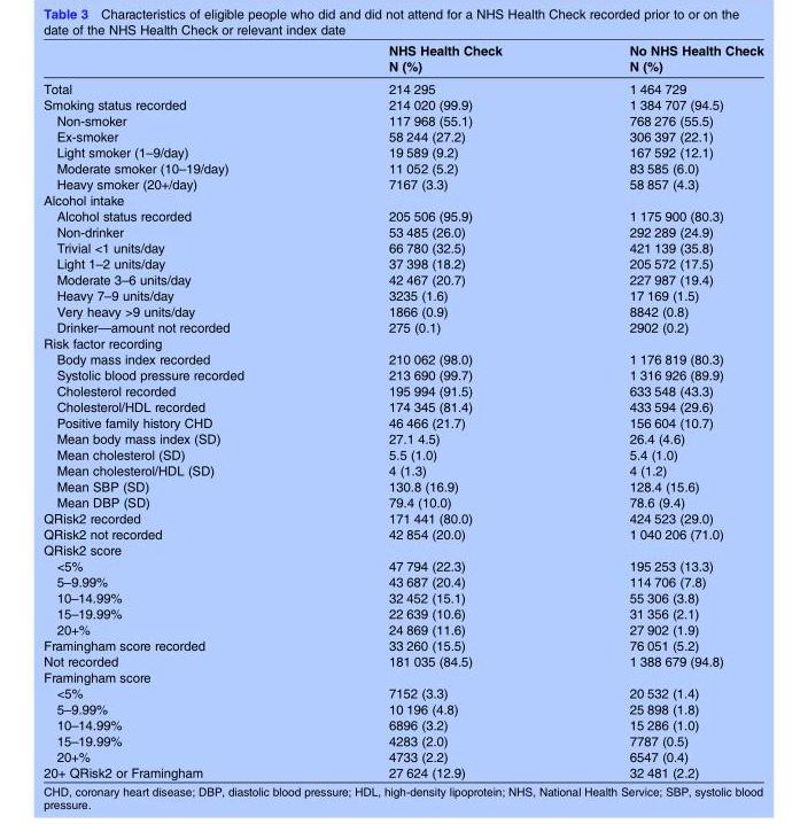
<table><thead><tr><td></td><td>NHS Health Check N (%)</td><td>No NHS Health Check N (%)</td></tr></thead><tbody><tr><td>Total</td><td>214 295</td><td>1 464 729</td></tr><tr><td>Smoking status recorded</td><td>214 020 (99.9)</td><td>1 384 707 (94.5)</td></tr><tr><td>Non-smoker</td><td>117 968 (55.1)</td><td>768 276 (55.5)</td></tr><tr><td>Ex-smoker</td><td>58 244 (27.2)</td><td>306 397 (22.1)</td></tr><tr><td>Light smoker (1–9/day)</td><td>19 589 (9.2)</td><td>167 592 (12.1)</td></tr><tr><td>Moderate smoker (10–19/day)</td><td>11 052 (5.2)</td><td>83 585 (6.0)</td></tr><tr><td>Heavy smoker (20+/day)</td><td>7167 (3.3)</td><td>58 857 (4.3)</td></tr><tr><td colspan="3">Alcohol intake</td></tr><tr><td>Alcohol status recorded</td><td>205 506 (95.9)</td><td>1 175 900 (80.3)</td></tr><tr><td>Non-drinker</td><td>53 485 (26.0)</td><td>292 289 (24.9)</td></tr><tr><td>Trivial &lt;1 units/day</td><td>66 780 (32.5)</td><td>421 139 (35.8)</td></tr><tr><td>Light 1–2 units/day</td><td>37 398 (18.2)</td><td>205 572 (17.5)</td></tr><tr><td>Moderate 3–6 units/day</td><td>42 467 (20.7)</td><td>227 987 (19.4)</td></tr><tr><td>Heavy 7–9 units/day</td><td>3235 (1.6)</td><td>17 169 (1.5)</td></tr><tr><td>Very heavy &gt;9 units/day</td><td>1866 (0.9)</td><td>8842 (0.8)</td></tr><tr><td>Drinker—amount not recorded</td><td>275 (0.1)</td><td>2902 (0.2)</td></tr><tr><td colspan="3">Risk factor recording</td></tr><tr><td>Body mass index recorded</td><td>210 062 (98.0)</td><td>1 176 819 (80.3)</td></tr><tr><td>Systolic blood pressure recorded</td><td>213 690 (99.7)</td><td>1 316 926 (89.9)</td></tr><tr><td>Cholesterol recorded</td><td>195 994 (91.5)</td><td>633 548 (43.3)</td></tr><tr><td>Cholesterol/HDL recorded</td><td>174 345 (81.4)</td><td>433 594 (29.6)</td></tr><tr><td>Positive family history CHD</td><td>46 466 (21.7)</td><td>156 604 (10.7)</td></tr><tr><td>Mean body mass index (SD)</td><td>27.1 4.5)</td><td>26.4 (4.6)</td></tr><tr><td>Mean cholesterol (SD)</td><td>5.5 (1.0)</td><td>5.4 (1.0)</td></tr><tr><td>Mean cholesterol/HDL (SD)</td><td>4 (1.3)</td><td>4 (1.2)</td></tr><tr><td>Mean SBP (SD)</td><td>130.8 (16.9)</td><td>128.4 (15.6)</td></tr><tr><td>Mean DBP (SD)</td><td>79.4 (10.0)</td><td>78.6 (9.4)</td></tr><tr><td>QRisk2 recorded</td><td>171 441 (80.0)</td><td>424 523 (29.0)</td></tr><tr><td>QRisk2 not recorded</td><td>42 854 (20.0)</td><td>1 040 206 (71.0)</td></tr><tr><td colspan="3">QRisk2 score</td></tr><tr><td>&lt;5%</td><td>47 794 (22.3)</td><td>195 253 (13.3)</td></tr><tr><td>5–9.99%</td><td>43 687 (20.4)</td><td>114 706 (7.8)</td></tr><tr><td>10–14.99%</td><td>32 452 (15.1)</td><td>55 306 (3.8)</td></tr><tr><td>15–19.99%</td><td>22 639 (10.6)</td><td>31 356 (2.1)</td></tr><tr><td>20+%</td><td>24 869 (11.6)</td><td>27 902 (1.9)</td></tr><tr><td>Framingham score recorded</td><td>33 260 (15.5)</td><td>76 051 (5.2)</td></tr><tr><td>Not recorded</td><td>181 035 (84.5)</td><td>1 388 679 (94.8)</td></tr><tr><td colspan="3">Framingham score</td></tr><tr><td>&lt;5%</td><td>7152 (3.3)</td><td>20 532 (1.4)</td></tr><tr><td>5–9.99%</td><td>10 196 (4.8)</td><td>25 898 (1.8)</td></tr><tr><td>10–14.99%</td><td>6896 (3.2)</td><td>15 286 (1.0)</td></tr><tr><td>15–19.99%</td><td>4283 (2.0)</td><td>7787 (0.5)</td></tr><tr><td>20+%</td><td>4733 (2.2)</td><td>6547 (0.4)</td></tr><tr><td>20+ QRisk2 or Framingham</td><td>27 624 (12.9)</td><td>32 481 (2.2)</td></tr></tbody></table>